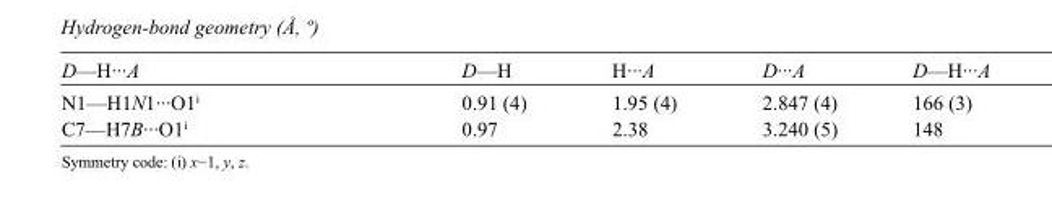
<table><tbody><tr><td>D—H···A</td><td>D—H</td><td>H···A</td><td>D···A</td><td>D—H···A</td></tr><tr><td>N1—H1N1···O1<sup>i</sup></td><td>0.91 (4)</td><td>1.95 (4)</td><td>2.847 (4)</td><td>166 (3)</td></tr><tr><td>C7—H7B···O1<sup>i</sup></td><td>0.97</td><td>2.38</td><td>3.240 (5)</td><td>148</td></tr></tbody></table>